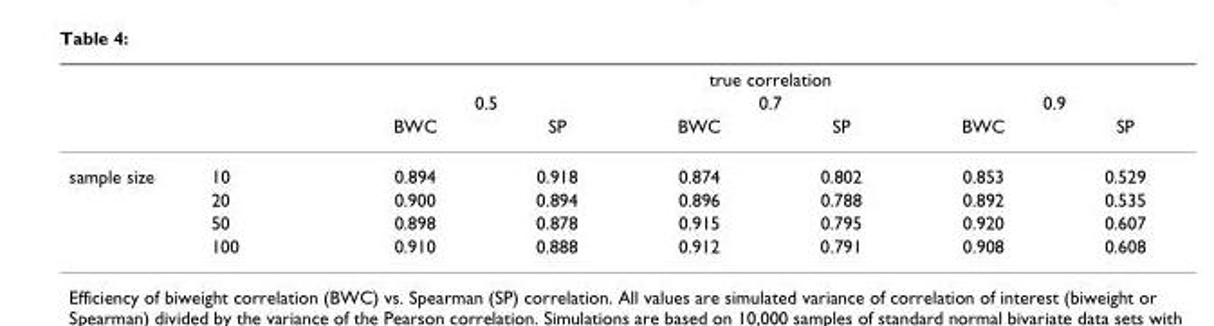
<table><thead><tr><td rowspan="3"></td><td rowspan="3"></td><td colspan="6">true correlation</td></tr><tr><td colspan="2">0.5</td><td colspan="2">0.7</td><td colspan="2">0.9</td></tr><tr><td>BWC</td><td>SP</td><td>BWC</td><td>SP</td><td>BWC</td><td>SP</td></tr></thead><tbody><tr><td rowspan="4">sample size</td><td>10</td><td>0.894</td><td>0.918</td><td>0.874</td><td>0.802</td><td>0.853</td><td>0.529</td></tr><tr><td>20</td><td>0.900</td><td>0.894</td><td>0.896</td><td>0.788</td><td>0.892</td><td>0.535</td></tr><tr><td>50</td><td>0.898</td><td>0.878</td><td>0.915</td><td>0.795</td><td>0.920</td><td>0.607</td></tr><tr><td>100</td><td>0.910</td><td>0.888</td><td>0.912</td><td>0.791</td><td>0.908</td><td>0.608</td></tr></tbody></table>